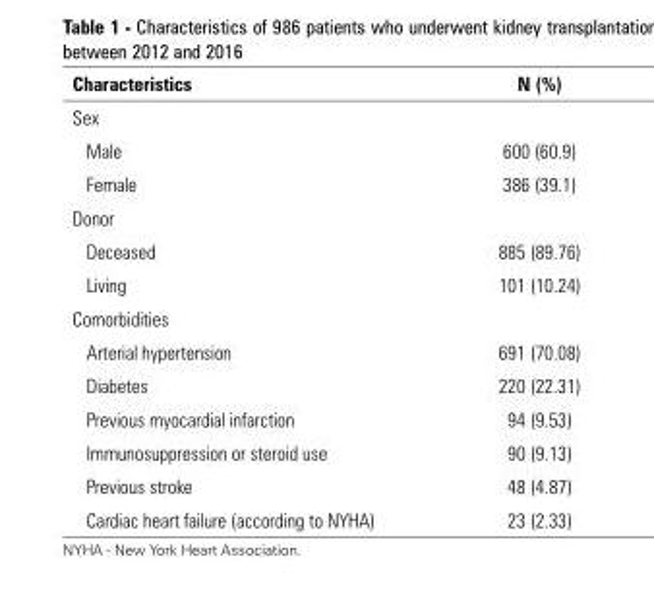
<table><thead><tr><td>Characteristics</td><td>N (%)</td></tr></thead><tbody><tr><td colspan="2">Sex</td></tr><tr><td>Male</td><td>600 (60.9)</td></tr><tr><td>Female</td><td>386 (39.1)</td></tr><tr><td colspan="2">Donor</td></tr><tr><td>Deceased</td><td>885 (89.76)</td></tr><tr><td>Living</td><td>101 (10.24)</td></tr><tr><td colspan="2">Comorbidities</td></tr><tr><td>Arterial hypertension</td><td>691 (70.08)</td></tr><tr><td>Diabetes</td><td>220 (22.31)</td></tr><tr><td>Previous myocardial infarction</td><td>94 (9.53)</td></tr><tr><td>Immunosuppression or steroid use</td><td>90 (9.13)</td></tr><tr><td>Previous stroke</td><td>48 (4.87)</td></tr><tr><td>Cardiac heart failure (according to NYHA)</td><td>23 (2.33)</td></tr></tbody></table>